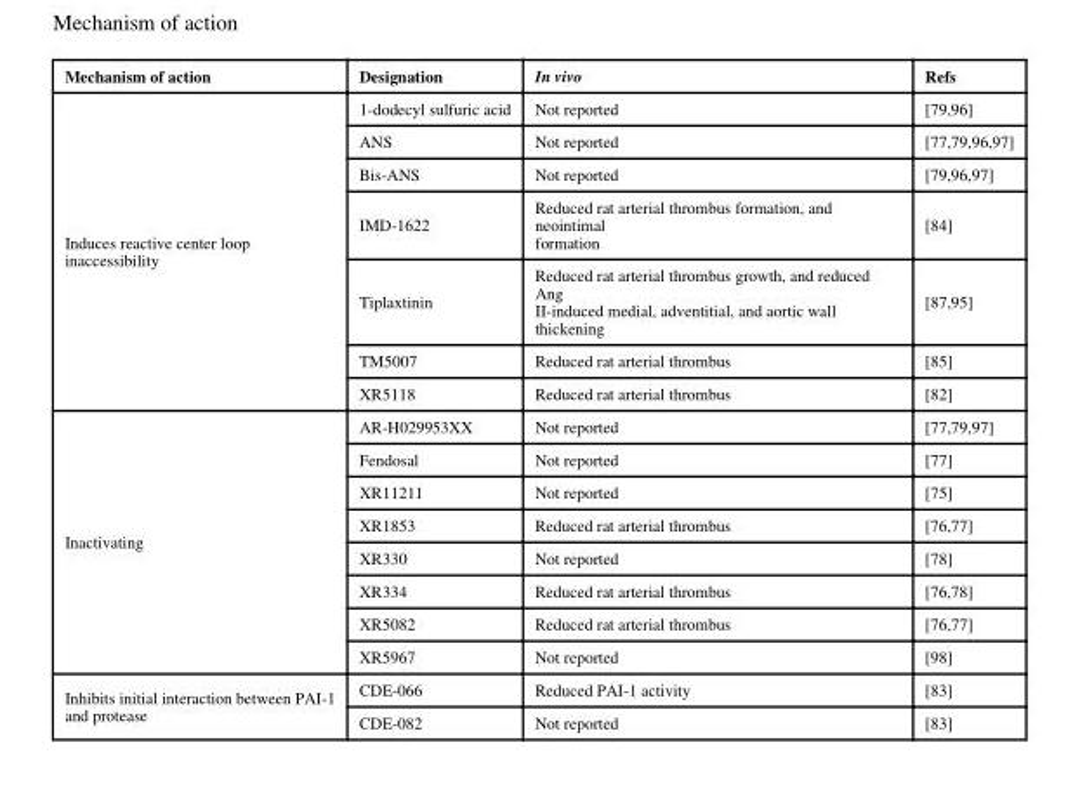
<table><thead><tr><td>Mechanism of action</td><td>Designation</td><td>In vivo</td><td>Refs</td></tr></thead><tbody><tr><td rowspan="7">Induces reactive center loop inaccessibility</td><td>1-dodecyl sulfuric acid</td><td>Not reported</td><td>[79,96]</td></tr><tr><td>ANS</td><td>Not reported</td><td>[77,79,96,97]</td></tr><tr><td>Bis-ANS</td><td>Not reported</td><td>[79,96,97]</td></tr><tr><td>IMD-1622</td><td>Reduced rat arterial thrombus formation, and neointimal formation</td><td>[84]</td></tr><tr><td>Tiplaxtinin</td><td>Reduced rat arterial thrombus growth, and reduced Ang II-induced medial, adventitial, and aortic wall thickening</td><td>[87,95]</td></tr><tr><td>TM5007</td><td>Reduced rat arterial thrombus</td><td>[85]</td></tr><tr><td>XR5118</td><td>Reduced rat arterial thrombus</td><td>[82]</td></tr><tr><td rowspan="8">Inactivating</td><td>AR-H029953XX</td><td>Not reported</td><td>[77,79,97]</td></tr><tr><td>Fendosal</td><td>Not reported</td><td>[77]</td></tr><tr><td>XR11211</td><td>Not reported</td><td>[75]</td></tr><tr><td>XR1853</td><td>Reduced rat arterial thrombus</td><td>[76,77]</td></tr><tr><td>XR330</td><td>Not reported</td><td>[78]</td></tr><tr><td>XR334</td><td>Reduced rat arterial thrombus</td><td>[76,78]</td></tr><tr><td>XR5082</td><td>Reduced rat arterial thrombus</td><td>[76,77]</td></tr><tr><td>XR5967</td><td>Not reported</td><td>[98]</td></tr><tr><td rowspan="2">Inhibits initial interaction between PAI-1 and protease</td><td>CDE-066</td><td>Reduced PAI-1 activity</td><td>[83]</td></tr><tr><td>CDE-082</td><td>Not reported</td><td>[83]</td></tr></tbody></table>